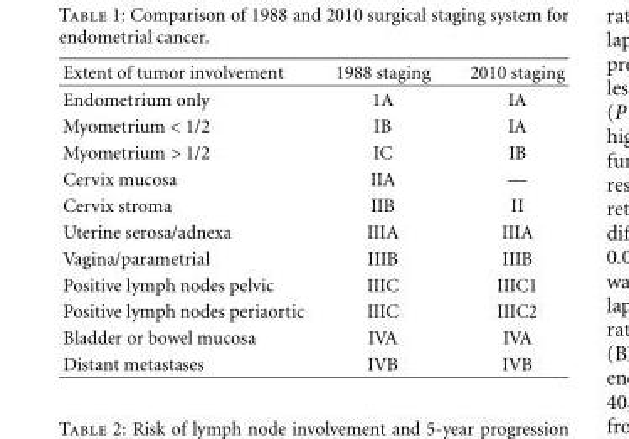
<table><thead><tr><td>Extent of tumor involvement</td><td>1988 staging</td><td>2010 staging</td></tr></thead><tbody><tr><td>Endometrium only</td><td>1A</td><td>IA</td></tr><tr><td>Myometrium &lt; 1/2</td><td>IB</td><td>IA</td></tr><tr><td>Myometrium &gt; 1/2</td><td>IC</td><td>IB</td></tr><tr><td>Cervix mucosa</td><td>IIA</td><td>—</td></tr><tr><td>Cervix stroma</td><td>IIB</td><td>II</td></tr><tr><td>Uterine serosa/adnexa</td><td>IIIA</td><td>IIIA</td></tr><tr><td>Vagina/parametrial</td><td>IIIB</td><td>IIIB</td></tr><tr><td>Positive lymph nodes pelvic</td><td>IIIC</td><td>IIIC1</td></tr><tr><td>Positive lymph nodes periaortic</td><td>IIIC</td><td>IIIC2</td></tr><tr><td>Bladder or bowel mucosa</td><td>IVA</td><td>IVA</td></tr><tr><td>Distant metastases</td><td>IVB</td><td>IVB</td></tr></tbody></table>